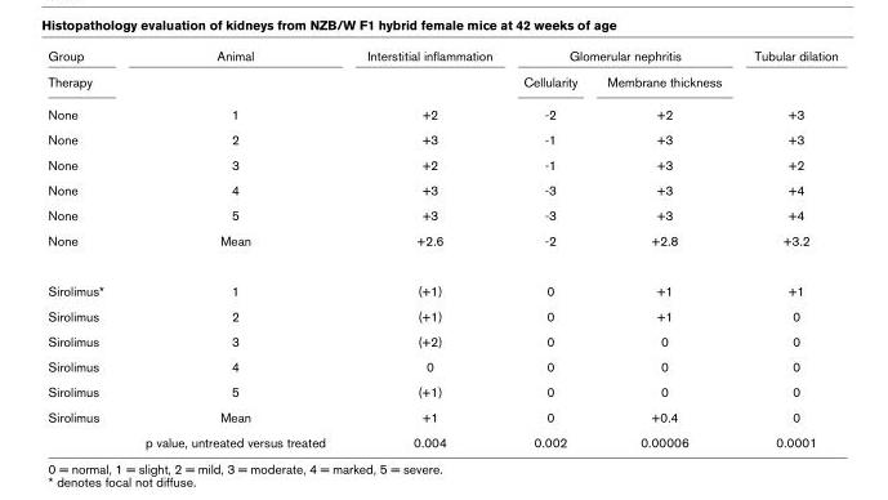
<table><tbody><tr><td>Group</td><td>Animal</td><td>Interstitial inflammation</td><td colspan="2">Glomerular nephritis</td><td>Tubular dilation</td></tr><tr><td>Therapy</td><td></td><td></td><td>Cellularity</td><td>Membrane thickness</td><td></td></tr><tr><td>None</td><td>1</td><td>+2</td><td>-2</td><td>+2</td><td>+3</td></tr><tr><td>None</td><td>2</td><td>+3</td><td>-1</td><td>+3</td><td>+3</td></tr><tr><td>None</td><td>3</td><td>+2</td><td>-1</td><td>+3</td><td>+2</td></tr><tr><td>None</td><td>4</td><td>+3</td><td>-3</td><td>+3</td><td>+4</td></tr><tr><td>None</td><td>5</td><td>+3</td><td>-3</td><td>+3</td><td>+4</td></tr><tr><td>None</td><td>Mean</td><td>+2.6</td><td>-2</td><td>+2.8</td><td>+3.2</td></tr><tr><td>Sirolimus*</td><td>1</td><td>(+1)</td><td>0</td><td>+1</td><td>+1</td></tr><tr><td>Sirolimus</td><td>2</td><td>(+1)</td><td>0</td><td>+1</td><td>0</td></tr><tr><td>Sirolimus</td><td>3</td><td>(+2)</td><td>0</td><td>0</td><td>0</td></tr><tr><td>Sirolimus</td><td>4</td><td>0</td><td>0</td><td>0</td><td>0</td></tr><tr><td>Sirolimus</td><td>5</td><td>(+1)</td><td>0</td><td>0</td><td>0</td></tr><tr><td rowspan="2">Sirolimus</td><td>Mean</td><td>+1</td><td>0</td><td>+0.4</td><td>0</td></tr><tr><td>p value, untreated versus treated</td><td>0.004</td><td>0.002</td><td>0.00006</td><td>0.0001</td></tr></tbody></table>